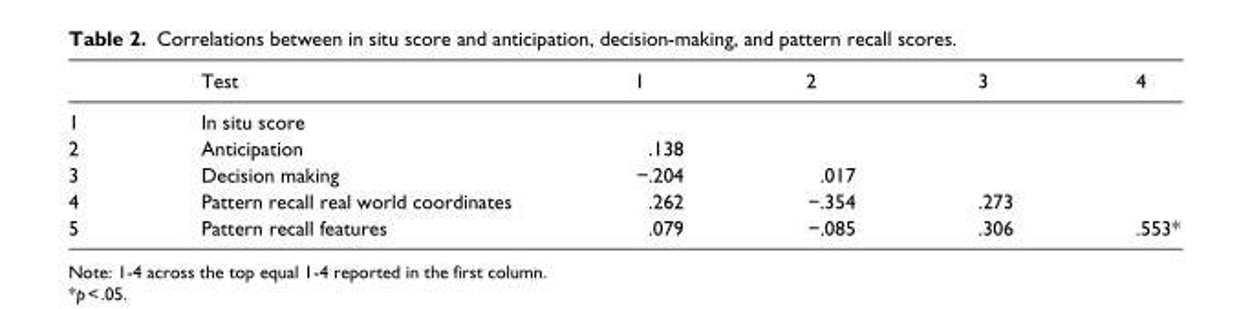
<table><thead><tr><td></td><td>Test</td><td>1</td><td>2</td><td>3</td><td>4</td></tr></thead><tbody><tr><td>1</td><td>In situ score</td><td></td><td></td><td></td><td></td></tr><tr><td>2</td><td>Anticipation</td><td>.138</td><td></td><td></td><td></td></tr><tr><td>3</td><td>Decision making</td><td>−.204</td><td>.017</td><td></td><td></td></tr><tr><td>4</td><td>Pattern recall real world coordinates</td><td>.262</td><td>−.354</td><td>.273</td><td></td></tr><tr><td>5</td><td>Pattern recall features</td><td>.079</td><td>−.085</td><td>.306</td><td>.553*</td></tr></tbody></table>